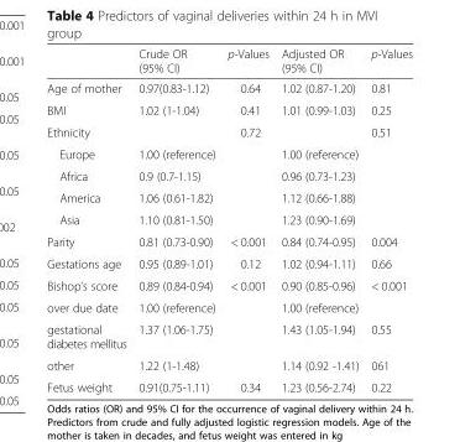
<table><thead><tr><td></td><td>Crude OR (95% CI)</td><td>p-Values</td><td>Adjusted OR (95% CI)</td><td>p-Values</td></tr></thead><tbody><tr><td>Age of mother</td><td>0.97(0.83-1.12)</td><td>0.64</td><td>1.02 (0.87-1.20)</td><td>0.81</td></tr><tr><td>BMI</td><td>1.02 (1-1.04)</td><td>0.41</td><td>1.01 (0.99-1.03)</td><td>0.25</td></tr><tr><td>Ethnicity</td><td></td><td>0.72</td><td></td><td>0.51</td></tr><tr><td>Europe</td><td>1.00 (reference)</td><td></td><td>1.00 (reference)</td><td></td></tr><tr><td>Africa</td><td>0.9 (0.7-1.15)</td><td></td><td>0.96 (0.73-1.23)</td><td></td></tr><tr><td>America</td><td>1.06 (0.61-1.82)</td><td></td><td>1.12 (0.66-1.88)</td><td></td></tr><tr><td>Asia</td><td>1.10 (0.81-1.50)</td><td></td><td>1.23 (0.90-1.69)</td><td></td></tr><tr><td>Parity</td><td>0.81 (0.73-0.90)</td><td>&lt; 0.001</td><td>0.84 (0.74-0.95)</td><td>0.004</td></tr><tr><td>Gestations age</td><td>0.95 (0.89-1.01)</td><td>0.12</td><td>1.02 (0.94-1.11)</td><td>0.66</td></tr><tr><td>Bishop’s score</td><td>0.89 (0.84-0.94)</td><td>&lt; 0.001</td><td>0.90 (0.85-0.96)</td><td>&lt; 0.001</td></tr><tr><td>over due date</td><td>1.00 (reference)</td><td></td><td>1.00 (reference)</td><td></td></tr><tr><td>gestational diabetes mellitus</td><td>1.37 (1.06-1.75)</td><td></td><td>1.43 (1.05-1.94)</td><td>0.55</td></tr><tr><td>other</td><td>1.22 (1-1.48)</td><td></td><td>1.14 (0.92 -1.41)</td><td>061</td></tr><tr><td>Fetus weight</td><td>0.91(0.75-1.11)</td><td>0.34</td><td>1.23 (0.56-2.74)</td><td>0.22</td></tr></tbody></table>